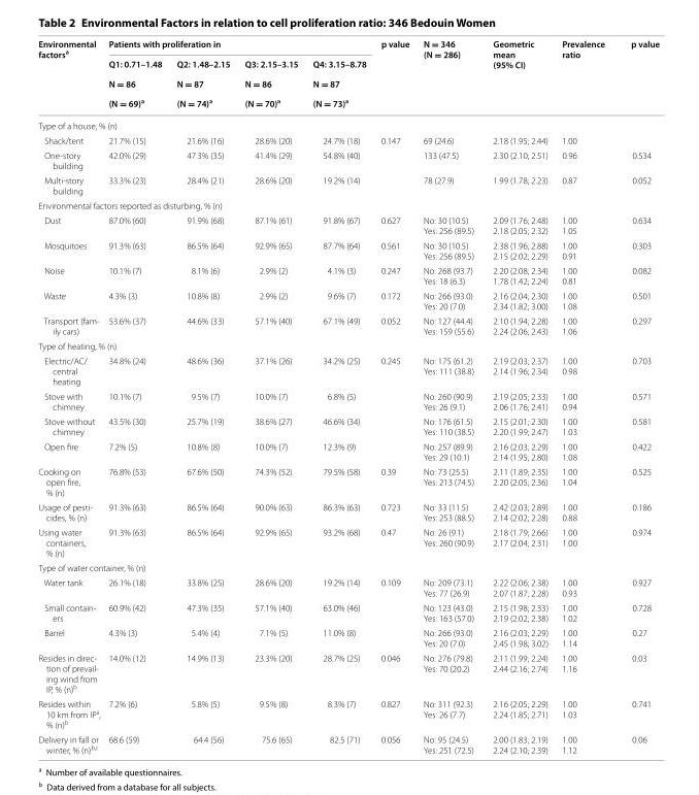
<table><thead><tr><td rowspan="4">Environmental factors<sup>a</sup></td><td colspan="4">Patients with proliferation in</td><td rowspan="4">p value</td><td rowspan="4">N = 346 (N = 286)</td><td rowspan="4">Geometric mean (95% CI)</td><td rowspan="4">Prevalence ratio</td><td rowspan="4">p value</td></tr><tr><td rowspan="3">Q1: 0.71–1.48 N = 86 (N = 69)<sup>a</sup></td><td rowspan="3">Q2: 1.48–2.15 N = 87 (N = 74)<sup>a</sup></td><td rowspan="3">Q3: 2.15–3.15 N = 86 (N = 70)<sup>a</sup></td><td rowspan="3">Q4: 3.15–8.78 N = 87 (N = 73)<sup>a</sup></td></tr><tr></tr><tr></tr></thead><tbody><tr><td colspan="10">Type of a house, % (n)</td></tr><tr><td>Shack/tent</td><td>21.7% (15)</td><td>21.6% (16)</td><td>28.6% (20)</td><td>24.7% (18)</td><td>0.147</td><td>69 (24.6)</td><td>2.18 (1.95; 2.44)</td><td>1.00</td><td></td></tr><tr><td>One‑story building</td><td>42.0% (29)</td><td>47.3% (35)</td><td>41.4% (29)</td><td>54.8% (40)</td><td></td><td>133 (47.5)</td><td>2.30 (2.10; 2.51)</td><td>0.96</td><td>0.534</td></tr><tr><td>Multi‑story building</td><td>33.3% (23)</td><td>28.4% (21)</td><td>28.6% (20)</td><td>19.2% (14)</td><td></td><td>78 (27.9)</td><td>1.99 (1.78; 2.23)</td><td>0.87</td><td>0.052</td></tr><tr><td colspan="10">Environmental factors reported as disturbing, % (n)</td></tr><tr><td>Dust</td><td>87.0% (60)</td><td>91.9% (68)</td><td>87.1% (61)</td><td>91.8% (67)</td><td>0.627</td><td>No: 30 (10.5) Yes: 256 (89.5)</td><td>2.09 (1.76; 2.48) 2.18 (2.05; 2.32)</td><td>1.00 1.05</td><td>0.634</td></tr><tr><td>Mosquitoes</td><td>91.3% (63)</td><td>86.5% (64)</td><td>92.9% (65)</td><td>87.7% (64)</td><td>0.561</td><td>No: 30 (10.5) Yes: 256 (89.5)</td><td>2.38 (1.96; 2.88) 2.15 (2.02; 2.29)</td><td>1.00 0.91</td><td>0.303</td></tr><tr><td>Noise</td><td>10.1% (7)</td><td>8.1% (6)</td><td>2.9% (2)</td><td>4.1% (3)</td><td>0.247</td><td>No: 268 (93.7) Yes: 18 (6.3)</td><td>2.20 (2.08; 2.34) 1.78 (1.42; 2.24)</td><td>1.00 0.81</td><td>0.082</td></tr><tr><td>Waste</td><td>4.3% (3)</td><td>10.8% (8)</td><td>2.9% (2)</td><td>9.6% (7)</td><td>0.172</td><td>No: 266 (93.0) Yes: 20 (7.0)</td><td>2.16 (2.04; 2.30) 2.34 (1.82; 3.00)</td><td>1.00 1.08</td><td>0.501</td></tr><tr><td>Transport (fam‑ ily cars)</td><td>53.6% (37)</td><td>44.6% (33)</td><td>57.1% (40)</td><td>67.1% (49)</td><td>0.052</td><td>No: 127 (44.4) Yes: 159 (55.6)</td><td>2.10 (1.94; 2.28) 2.24 (2.06; 2.43)</td><td>1.00 1.06</td><td>0.297</td></tr><tr><td colspan="10">Type of heating, % (n)</td></tr><tr><td>Electric/AC/ central heating</td><td>34.8% (24)</td><td>48.6% (36)</td><td>37.1% (26)</td><td>34.2% (25)</td><td>0.245</td><td>No: 175 (61.2) Yes: 111 (38.8)</td><td>2.19 (2.03; 2.37) 2.14 (1.96; 2.34)</td><td>1.00 0.98</td><td>0.703</td></tr><tr><td>Stove with chimney</td><td>10.1% (7)</td><td>9.5% (7)</td><td>10.0% (7)</td><td>6.8% (5)</td><td></td><td>No: 260 (90.9) Yes: 26 (9.1)</td><td>2.19 (2.05; 2.33) 2.06 (1.76; 2.41)</td><td>1.00 0.94</td><td>0.571</td></tr><tr><td>Stove without chimney</td><td>43.5% (30)</td><td>25.7% (19)</td><td>38.6% (27)</td><td>46.6% (34)</td><td></td><td>No: 176 (61.5) Yes: 110 (38.5)</td><td>2.15 (2.01; 2.30) 2.20 (1.99; 2.47)</td><td>1.00 1.03</td><td>0.581</td></tr><tr><td>Open fire</td><td>7.2% (5)</td><td>10.8% (8)</td><td>10.0% (7)</td><td>12.3% (9)</td><td></td><td>No: 257 (89.9) Yes: 29 (10.1)</td><td>2.16 (2.03; 2.29) 2.14 (1.95; 2.80)</td><td>1.00 1.08</td><td>0.422</td></tr><tr><td>Cooking on open fire, % (n)</td><td>76.8% (53)</td><td>67.6% (50)</td><td>74.3% (52)</td><td>79.5% (58)</td><td>0.39</td><td>No: 73 (25.5) Yes: 213 (74.5)</td><td>2.11 (1.89; 2.35) 2.20 (2.05; 2.36)</td><td>1.00 1.04</td><td>0.525</td></tr><tr><td>Usage of pesti‑ cides, % (n)</td><td>91.3% (63)</td><td>86.5% (64)</td><td>90.0% (63)</td><td>86.3% (63)</td><td>0.723</td><td>No: 33 (11.5) Yes: 253 (88.5)</td><td>2.42 (2.03; 2.89) 2.14 (2.02; 2.28)</td><td>1.00 0.88</td><td>0.186</td></tr><tr><td>Using water containers, % (n)</td><td>91.3% (63)</td><td>86.5% (64)</td><td>92.9% (65)</td><td>93.2% (68)</td><td>0.47</td><td>No: 26 (9.1) Yes: 260 (90.9)</td><td>2.18 (1.79; 2.66) 2.17 (2.04; 2.31)</td><td>1.00 1.00</td><td>0.974</td></tr><tr><td colspan="10">Type of water container, % (n)</td></tr><tr><td>Water tank</td><td>26.1% (18)</td><td>33.8% (25)</td><td>28.6% (20)</td><td>19.2% (14)</td><td>0.109</td><td>No: 209 (73.1) Yes: 77 (26.9)</td><td>2.22 (2.06; 2.38) 2.07 (1.87; 2.28)</td><td>1.00 0.93</td><td>0.927</td></tr><tr><td>Small contain‑ ers</td><td>60.9% (42)</td><td>47.3% (35)</td><td>57.1% (40)</td><td>63.0% (46)</td><td></td><td>No: 123 (43.0) Yes: 163 (57.0)</td><td>2.15 (1.98; 2.33) 2.19 (2.02; 2.38)</td><td>1.00 1.02</td><td>0.728</td></tr><tr><td>Barrel</td><td>4.3% (3)</td><td>5.4% (4)</td><td>7.1% (5)</td><td>11.0% (8)</td><td></td><td>No: 266 (93.0) Yes: 20 (7.0)</td><td>2.16 (2.03; 2.29) 2.45 (1.98; 3.02)</td><td>1.00 1.14</td><td>0.27</td></tr><tr><td>Resides in direc‑ tion of prevail‑ ing wind from IP, % (n)b</td><td>14.0% (12)</td><td>14.9% (13)</td><td>23.3% (20)</td><td>28.7% (25)</td><td>0.046</td><td>No: 276 (79.8) Yes: 70 (20.2)</td><td>2.11 (1.99; 2.24) 2.44 (2.16; 2.74)</td><td>1.00 1.16</td><td>0.03</td></tr><tr><td>Resides within 10 km from IP<sup>a</sup>, % (n)<sup>b</sup></td><td>7.2% (6)</td><td>5.8% (5)</td><td>9.5% (8)</td><td>8.3% (7)</td><td>0.827</td><td>No: 311 (92.3) Yes: 26 (7.7)</td><td>2.16 (2.05; 2.29) 2.24 (1.85; 2.71)</td><td>1.00 1.03</td><td>0.741</td></tr><tr><td>Delivery in fall or winter, % (n)<sup>b,c</sup></td><td>68.6 (59)</td><td>64.4 (56)</td><td>75.6 (65)</td><td>82.5 (71)</td><td>0.056</td><td>No: 95 (24.5) Yes: 251 (72.5)</td><td>2.00 (1.83; 2.19) 2.24 (2.10; 2.39)</td><td>1.00 1.12</td><td>0.06</td></tr></tbody></table>